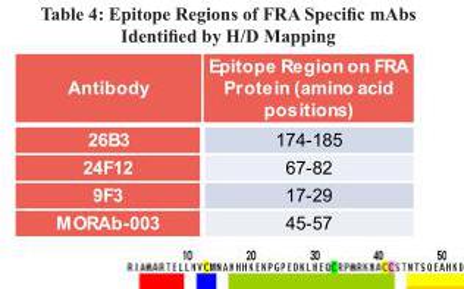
<table><thead><tr><td>Antibody</td><td>Epitope Region on FRA Protein (amino acid positions)</td></tr></thead><tbody><tr><td>26B3</td><td>174-185</td></tr><tr><td>24F12</td><td>67-82</td></tr><tr><td>9F3</td><td>17-29</td></tr><tr><td>MORAb-003</td><td>45-57</td></tr></tbody></table>